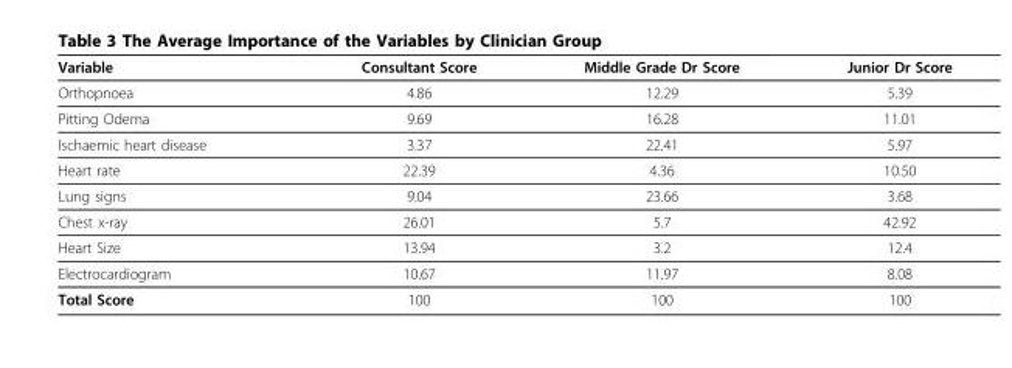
<table><thead><tr><td>Variable</td><td>Consultant Score</td><td>Middle Grade Dr Score</td><td>Junior Dr Score</td></tr></thead><tbody><tr><td>Orthopnoea</td><td>4.86</td><td>12.29</td><td>5.39</td></tr><tr><td>Pitting Odema</td><td>9.69</td><td>16.28</td><td>11.01</td></tr><tr><td>Ischaemic heart disease</td><td>3.37</td><td>22.41</td><td>5.97</td></tr><tr><td>Heart rate</td><td>22.39</td><td>4.36</td><td>10.50</td></tr><tr><td>Lung signs</td><td>9.04</td><td>23.66</td><td>3.68</td></tr><tr><td>Chest x-ray</td><td>26.01</td><td>5.7</td><td>42.92</td></tr><tr><td>Heart Size</td><td>13.94</td><td>3.2</td><td>12.4</td></tr><tr><td>Electrocardiogram</td><td>10.67</td><td>11.97</td><td>8.08</td></tr><tr><td>Total Score</td><td>100</td><td>100</td><td>100</td></tr></tbody></table>